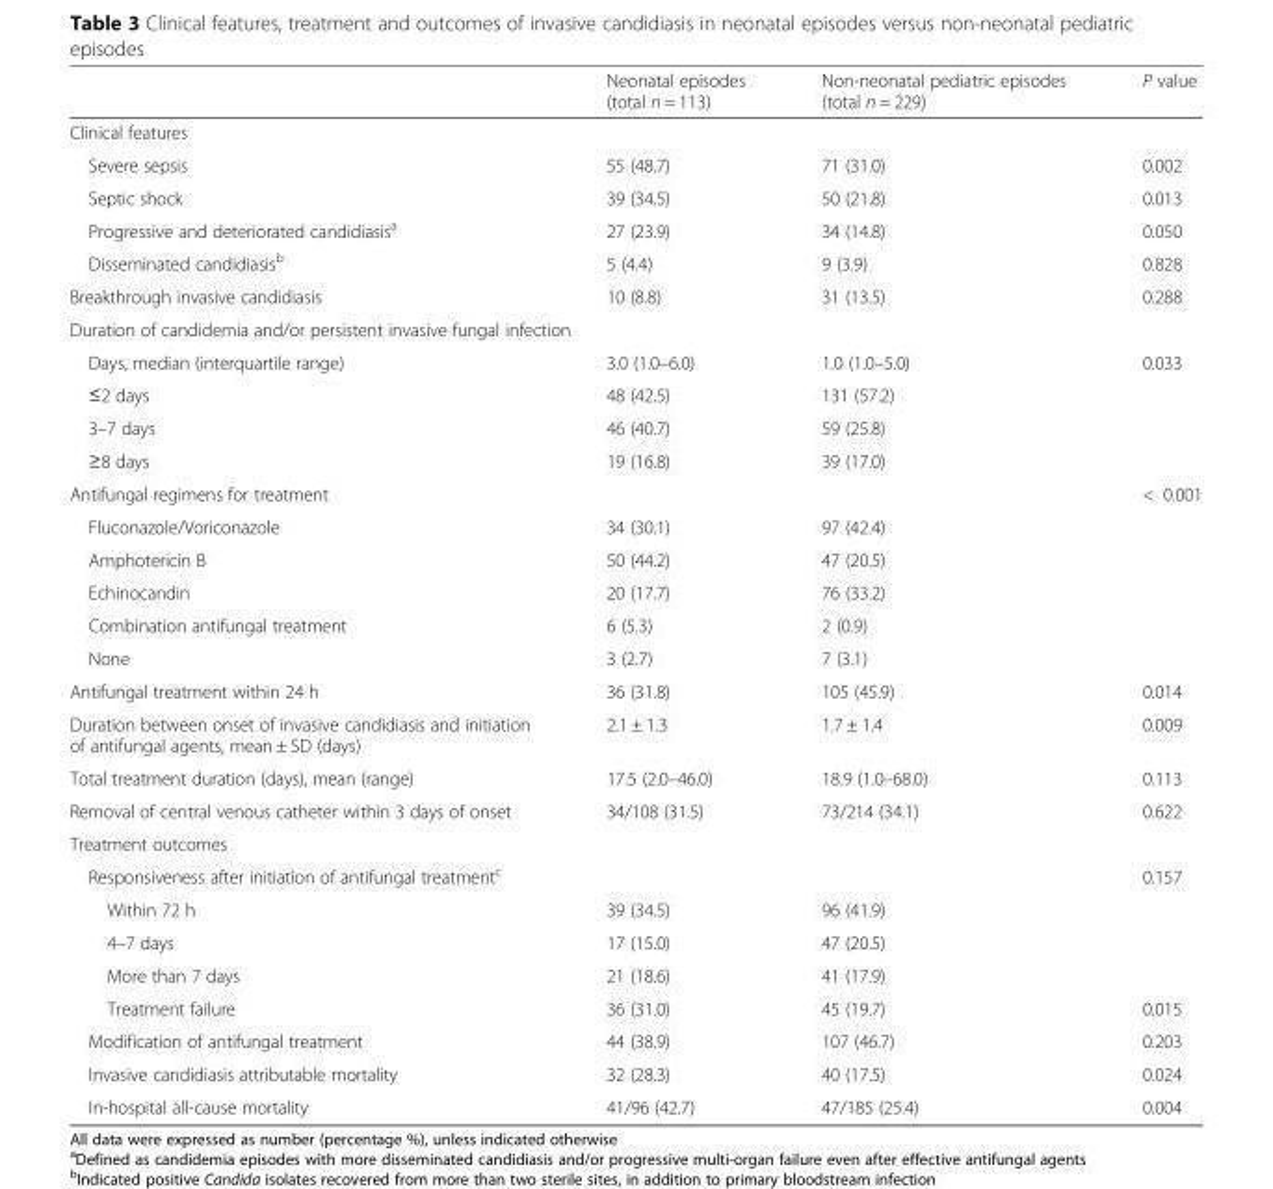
<table><thead><tr><td></td><td>Neonatal episodes (total n = 113)</td><td>Non-neonatal pediatric episodes (total n = 229)</td><td>P value</td></tr></thead><tbody><tr><td colspan="4">Clinical features</td></tr><tr><td>Severe sepsis</td><td>55 (48.7)</td><td>71 (31.0)</td><td>0.002</td></tr><tr><td>Septic shock</td><td>39 (34.5)</td><td>50 (21.8)</td><td>0.013</td></tr><tr><td>Progressive and deteriorated candidiasis<sup>a</sup></td><td>27 (23.9)</td><td>34 (14.8)</td><td>0.050</td></tr><tr><td>Disseminated candidiasis<sup>b</sup></td><td>5 (4.4)</td><td>9 (3.9)</td><td>0.828</td></tr><tr><td>Breakthrough invasive candidiasis</td><td>10 (8.8)</td><td>31 (13.5)</td><td>0.288</td></tr><tr><td colspan="4">Duration of candidemia and/or persistent invasive fungal infection</td></tr><tr><td>Days, median (interquartile range)</td><td>3.0 (1.0–6.0)</td><td>1.0 (1.0–5.0)</td><td>0.033</td></tr><tr><td>≤2 days</td><td>48 (42.5)</td><td>131 (57.2)</td><td></td></tr><tr><td>3–7 days</td><td>46 (40.7)</td><td>59 (25.8)</td><td></td></tr><tr><td>≥8 days</td><td>19 (16.8)</td><td>39 (17.0)</td><td></td></tr><tr><td>Antifungal regimens for treatment</td><td></td><td></td><td>&lt; 0.001</td></tr><tr><td>Fluconazole/Voriconazole</td><td>34 (30.1)</td><td>97 (42.4)</td><td></td></tr><tr><td>Amphotericin B</td><td>50 (44.2)</td><td>47 (20.5)</td><td></td></tr><tr><td>Echinocandin</td><td>20 (17.7)</td><td>76 (33.2)</td><td></td></tr><tr><td>Combination antifungal treatment</td><td>6 (5.3)</td><td>2 (0.9)</td><td></td></tr><tr><td>None</td><td>3 (2.7)</td><td>7 (3.1)</td><td></td></tr><tr><td>Antifungal treatment within 24 h</td><td>36 (31.8)</td><td>105 (45.9)</td><td>0.014</td></tr><tr><td>Duration between onset of invasive candidiasis and initiation of antifungal agents, mean ± SD (days)</td><td>2.1 ± 1.3</td><td>1.7 ± 1.4</td><td>0.009</td></tr><tr><td>Total treatment duration (days), mean (range)</td><td>17.5 (2.0–46.0)</td><td>18.9 (1.0–68.0)</td><td>0.113</td></tr><tr><td>Removal of central venous catheter within 3 days of onset</td><td>34/108 (31.5)</td><td>73/214 (34.1)</td><td>0.622</td></tr><tr><td colspan="4">Treatment outcomes</td></tr><tr><td>Responsiveness after initiation of antifungal treatment<sup>c</sup></td><td></td><td></td><td>0.157</td></tr><tr><td>Within 72 h</td><td>39 (34.5)</td><td>96 (41.9)</td><td></td></tr><tr><td>4–7 days</td><td>17 (15.0)</td><td>47 (20.5)</td><td></td></tr><tr><td>More than 7 days</td><td>21 (18.6)</td><td>41 (17.9)</td><td></td></tr><tr><td>Treatment failure</td><td>36 (31.0)</td><td>45 (19.7)</td><td>0.015</td></tr><tr><td>Modification of antifungal treatment</td><td>44 (38.9)</td><td>107 (46.7)</td><td>0.203</td></tr><tr><td>Invasive candidiasis attributable mortality</td><td>32 (28.3)</td><td>40 (17.5)</td><td>0.024</td></tr><tr><td>In-hospital all-cause mortality</td><td>41/96 (42.7)</td><td>47/185 (25.4)</td><td>0.004</td></tr></tbody></table>